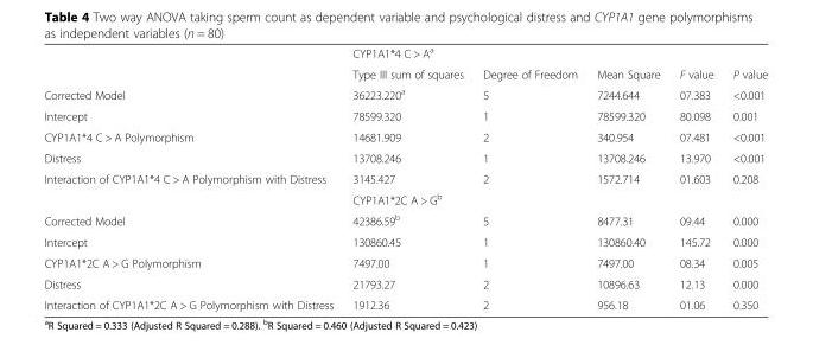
<table><thead><tr><td rowspan="2"></td><td colspan="5">CYP1A1*4 C &gt; A<sup>a</sup></td></tr><tr><td>Type III sum of squares</td><td>Degree of Freedom</td><td>Mean Square</td><td>F value</td><td>P value</td></tr></thead><tbody><tr><td>Corrected Model</td><td>36223.220<sup>a</sup></td><td>5</td><td>7244.644</td><td>07.383</td><td>&lt;0.001</td></tr><tr><td>Intercept</td><td>78599.320</td><td>1</td><td>78599.320</td><td>80.098</td><td>0.001</td></tr><tr><td>CYP1A1*4 C &gt; A Polymorphism</td><td>14681.909</td><td>2</td><td>340.954</td><td>07.481</td><td>&lt;0.001</td></tr><tr><td>Distress</td><td>13708.246</td><td>1</td><td>13708.246</td><td>13.970</td><td>&lt;0.001</td></tr><tr><td rowspan="2">Interaction of CYP1A1*4 C &gt; A Polymorphism with Distress</td><td>3145.427</td><td>2</td><td>1572.714</td><td>01.603</td><td>0.208</td></tr><tr><td colspan="5">CYP1A1*2C A &gt; G<sup>b</sup></td></tr><tr><td>Corrected Model</td><td>42386.59<sup>b</sup></td><td>5</td><td>8477.31</td><td>09.44</td><td>0.000</td></tr><tr><td>Intercept</td><td>130860.45</td><td>1</td><td>130860.40</td><td>145.72</td><td>0.000</td></tr><tr><td>CYP1A1*2C A &gt; G Polymorphism</td><td>7497.00</td><td>1</td><td>7497.00</td><td>08.34</td><td>0.005</td></tr><tr><td>Distress</td><td>21793.27</td><td>2</td><td>10896.63</td><td>12.13</td><td>0.000</td></tr><tr><td>Interaction of CYP1A1*2C A &gt; G Polymorphism with Distress</td><td>1912.36</td><td>2</td><td>956.18</td><td>01.06</td><td>0.350</td></tr></tbody></table>